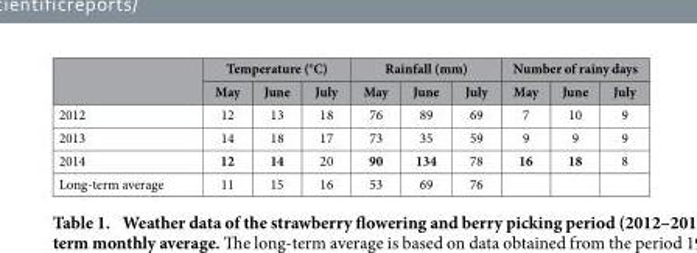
<table><thead><tr><td rowspan="2"></td><td colspan="3">Temperature (°C)</td><td colspan="3">Rainfall (mm)</td><td colspan="3">Number of rainy days</td></tr><tr><td>May</td><td>June</td><td>July</td><td>May</td><td>June</td><td>July</td><td>May</td><td>June</td><td>July</td></tr></thead><tbody><tr><td>2012</td><td>12</td><td>13</td><td>18</td><td>76</td><td>89</td><td>69</td><td>7</td><td>10</td><td>9</td></tr><tr><td>2013</td><td>14</td><td>18</td><td>17</td><td>73</td><td>35</td><td>59</td><td>9</td><td>9</td><td>9</td></tr><tr><td>2014</td><td>12</td><td>14</td><td>20</td><td>90</td><td>134</td><td>78</td><td>16</td><td>18</td><td>8</td></tr><tr><td>Long-term average</td><td>11</td><td>15</td><td>16</td><td>53</td><td>69</td><td>76</td><td></td><td></td><td></td></tr></tbody></table>